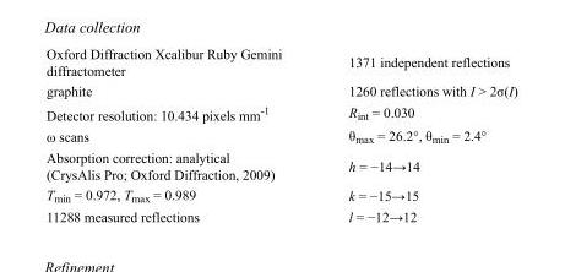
<table><tbody><tr><td>Oxford Diffraction Xcalibur Ruby Gemini diffractometer</td><td>1371 independent reflections</td></tr><tr><td>graphite</td><td>1260 reflections with I &gt; 2σ(I)</td></tr><tr><td>Detector resolution: 10.434 pixels mm<sup>-1</sup></td><td>R<sub>int</sub> = 0.030</td></tr><tr><td>ω scans</td><td>θ<sub>max</sub> = 26.2°, θ<sub>min</sub> = 2.4°</td></tr><tr><td>Absorption correction: analytical (CrysAlis Pro; Oxford Diffraction, 2009)</td><td>h = −14→14</td></tr><tr><td>T<sub>min</sub> = 0.972, T<sub>max</sub> = 0.989</td><td>k = −15→15</td></tr><tr><td>11288 measured reflections</td><td>l = −12→12</td></tr></tbody></table>